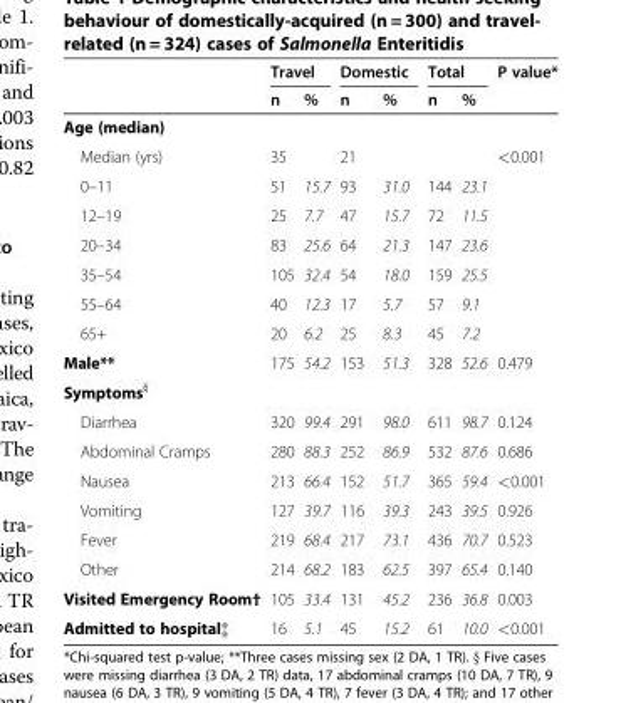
<table><thead><tr><td rowspan="2"></td><td colspan="2">Travel</td><td colspan="2">Domestic</td><td colspan="2">Total</td><td rowspan="2">P value*</td></tr><tr><td>n</td><td>%</td><td>n</td><td>%</td><td>n</td><td>%</td></tr></thead><tbody><tr><td colspan="8">Age (median)</td></tr><tr><td>Median (yrs)</td><td>35</td><td></td><td>21</td><td></td><td></td><td></td><td>&lt;0.001</td></tr><tr><td>0–11</td><td>51</td><td>15.7</td><td>93</td><td>31.0</td><td>144</td><td>23.1</td><td></td></tr><tr><td>12–19</td><td>25</td><td>7.7</td><td>47</td><td>15.7</td><td>72</td><td>11.5</td><td></td></tr><tr><td>20–34</td><td>83</td><td>25.6</td><td>64</td><td>21.3</td><td>147</td><td>23.6</td><td></td></tr><tr><td>35–54</td><td>105</td><td>32.4</td><td>54</td><td>18.0</td><td>159</td><td>25.5</td><td></td></tr><tr><td>55–64</td><td>40</td><td>12.3</td><td>17</td><td>5.7</td><td>57</td><td>9.1</td><td></td></tr><tr><td>65+</td><td>20</td><td>6.2</td><td>25</td><td>8.3</td><td>45</td><td>7.2</td><td></td></tr><tr><td>Male**</td><td>175</td><td>54.2</td><td>153</td><td>51.3</td><td>328</td><td>52.6</td><td>0.479</td></tr><tr><td colspan="8">Symptoms<sup>§</sup></td></tr><tr><td>Diarrhea</td><td>320</td><td>99.4</td><td>291</td><td>98.0</td><td>611</td><td>98.7</td><td>0.124</td></tr><tr><td>Abdominal Cramps</td><td>280</td><td>88.3</td><td>252</td><td>86.9</td><td>532</td><td>87.6</td><td>0.686</td></tr><tr><td>Nausea</td><td>213</td><td>66.4</td><td>152</td><td>51.7</td><td>365</td><td>59.4</td><td>&lt;0.001</td></tr><tr><td>Vomiting</td><td>127</td><td>39.7</td><td>116</td><td>39.3</td><td>243</td><td>39.5</td><td>0.926</td></tr><tr><td>Fever</td><td>219</td><td>68.4</td><td>217</td><td>73.1</td><td>436</td><td>70.7</td><td>0.523</td></tr><tr><td>Other</td><td>214</td><td>68.2</td><td>183</td><td>62.5</td><td>397</td><td>65.4</td><td>0.140</td></tr><tr><td>Visited Emergency Room†</td><td>105</td><td>33.4</td><td>131</td><td>45.2</td><td>236</td><td>36.8</td><td>0.003</td></tr><tr><td>Admitted to hospital‡</td><td>16</td><td>5.1</td><td>45</td><td>15.2</td><td>61</td><td>10.0</td><td>&lt;0.001</td></tr></tbody></table>